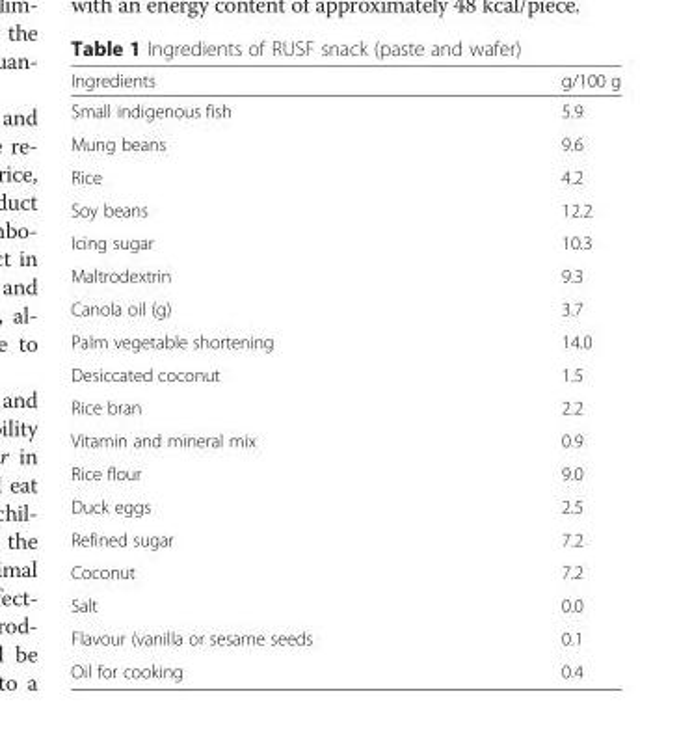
<table><thead><tr><td>Ingredients</td><td>g/100 g</td></tr></thead><tbody><tr><td>Small indigenous fish</td><td>5.9</td></tr><tr><td>Mung beans</td><td>9.6</td></tr><tr><td>Rice</td><td>4.2</td></tr><tr><td>Soy beans</td><td>12.2</td></tr><tr><td>Icing sugar</td><td>10.3</td></tr><tr><td>Maltrodextrin</td><td>9.3</td></tr><tr><td>Canola oil (g)</td><td>3.7</td></tr><tr><td>Palm vegetable shortening</td><td>14.0</td></tr><tr><td>Desiccated coconut</td><td>1.5</td></tr><tr><td>Rice bran</td><td>2.2</td></tr><tr><td>Vitamin and mineral mix</td><td>0.9</td></tr><tr><td>Rice flour</td><td>9.0</td></tr><tr><td>Duck eggs</td><td>2.5</td></tr><tr><td>Refined sugar</td><td>7.2</td></tr><tr><td>Coconut</td><td>7.2</td></tr><tr><td>Salt</td><td>0.0</td></tr><tr><td>Flavour (vanilla or sesame seeds</td><td>0.1</td></tr><tr><td>Oil for cooking</td><td>0.4</td></tr></tbody></table>